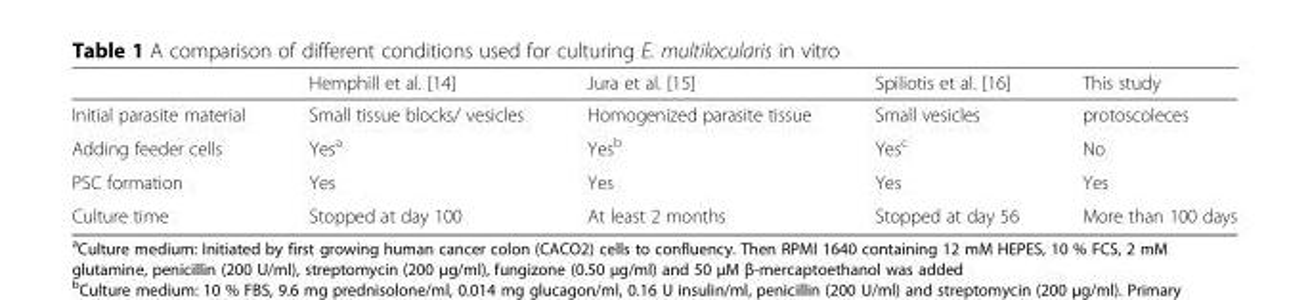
<table><thead><tr><td></td><td>Hemphill et al. [14]</td><td>Jura et al. [15]</td><td>Spiliotis et al. [16]</td><td>This study</td></tr></thead><tbody><tr><td>Initial parasite material</td><td>Small tissue blocks/ vesicles</td><td>Homogenized parasite tissue</td><td>Small vesicles</td><td>protoscoleces</td></tr><tr><td>Adding feeder cells</td><td>Yes<sup>a</sup></td><td>Yes<sup>b</sup></td><td>Yes<sup>c</sup></td><td>No</td></tr><tr><td>PSC formation</td><td>Yes</td><td>Yes</td><td>Yes</td><td>Yes</td></tr><tr><td>Culture time</td><td>Stopped at day 100</td><td>At least 2 months</td><td>Stopped at day 56</td><td>More than 100 days</td></tr></tbody></table>